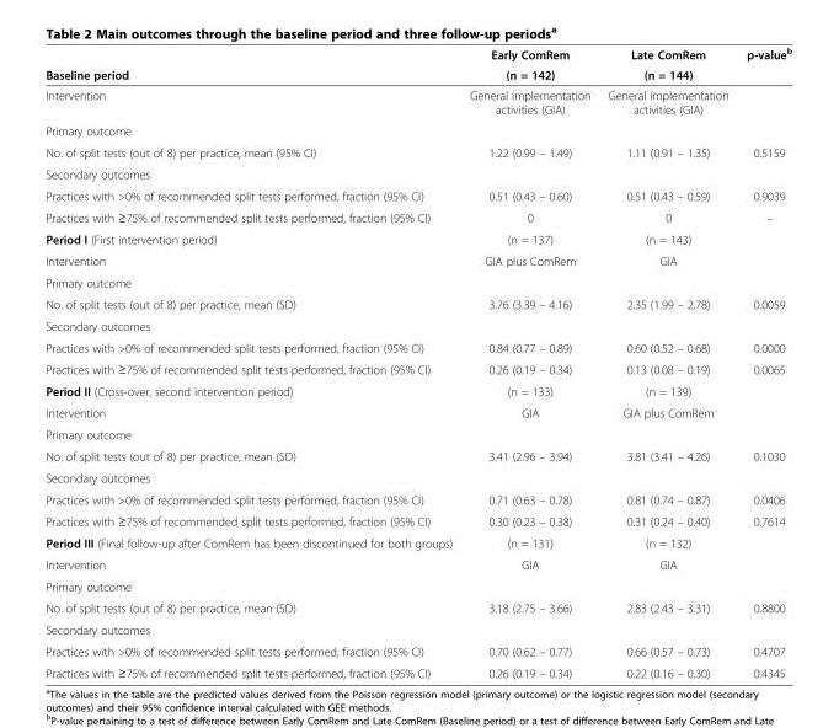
<table><thead><tr><td rowspan="2">Baseline period</td><td rowspan="2">Early ComRem (n = 142)</td><td rowspan="2">Late ComRem (n = 144)</td><td rowspan="2">p-value<sup>b</sup></td></tr><tr></tr></thead><tbody><tr><td>Intervention</td><td>General implementation activities (GIA)</td><td>General implementation activities (GIA)</td><td></td></tr><tr><td colspan="4">Primary outcome</td></tr><tr><td>No. of split tests (out of 8) per practice, mean (95% CI)</td><td>1.22 (0.99 – 1.49)</td><td>1.11 (0.91 – 1.35)</td><td>0.5159</td></tr><tr><td colspan="4">Secondary outcomes</td></tr><tr><td>Practices with &gt;0% of recommended split tests performed, fraction (95% CI)</td><td>0.51 (0.43 – 0.60)</td><td>0.51 (0.43 – 0.59)</td><td>0.9039</td></tr><tr><td>Practices with ≥75% of recommended split tests performed, fraction (95% CI)</td><td>0</td><td>0</td><td>–</td></tr><tr><td>Period I (First intervention period)</td><td>(n = 137)</td><td>(n = 143)</td><td></td></tr><tr><td>Intervention</td><td>GIA plus ComRem</td><td>GIA</td><td></td></tr><tr><td colspan="4">Primary outcome</td></tr><tr><td>No. of split tests (out of 8) per practice, mean (SD)</td><td>3.76 (3.39 – 4.16)</td><td>2.35 (1.99 – 2.78)</td><td>0.0059</td></tr><tr><td colspan="4">Secondary outcomes</td></tr><tr><td>Practices with &gt;0% of recommended split tests performed, fraction (95% CI)</td><td>0.84 (0.77 – 0.89)</td><td>0.60 (0.52 – 0.68)</td><td>0.0000</td></tr><tr><td>Practices with ≥75% of recommended split tests performed, fraction (95% CI)</td><td>0.26 (0.19 – 0.34)</td><td>0.13 (0.08 – 0.19)</td><td>0.0065</td></tr><tr><td>Period II (Cross-over, second intervention period)</td><td>(n = 133)</td><td>(n = 139)</td><td></td></tr><tr><td>Intervention</td><td>GIA</td><td>GIA plus ComRem</td><td></td></tr><tr><td colspan="4">Primary outcome</td></tr><tr><td>No. of split tests (out of 8) per practice, mean (SD)</td><td>3.41 (2.96 – 3.94)</td><td>3.81 (3.41 – 4.26)</td><td>0.1030</td></tr><tr><td colspan="4">Secondary outcomes</td></tr><tr><td>Practices with &gt;0% of recommended split tests performed, fraction (95% CI)</td><td>0.71 (0.63 – 0.78)</td><td>0.81 (0.74 – 0.87)</td><td>0.0406</td></tr><tr><td>Practices with ≥75% of recommended split tests performed, fraction (95% CI)</td><td>0.30 (0.23 – 0.38)</td><td>0.31 (0.24 – 0.40)</td><td>0.7614</td></tr><tr><td>Period III (Final follow-up after ComRem has been discontinued for both groups)</td><td>(n = 131)</td><td>(n = 132)</td><td></td></tr><tr><td>Intervention</td><td>GIA</td><td>GIA</td><td></td></tr><tr><td colspan="4">Primary outcome</td></tr><tr><td>No. of split tests (out of 8) per practice, mean (SD)</td><td>3.18 (2.75 – 3.66)</td><td>2.83 (2.43 – 3.31)</td><td>0.8800</td></tr><tr><td colspan="4">Secondary outcomes</td></tr><tr><td>Practices with &gt;0% of recommended split tests performed, fraction (95% CI)</td><td>0.70 (0.62 – 0.77)</td><td>0.66 (0.57 – 0.73)</td><td>0.4707</td></tr><tr><td>Practices with ≥75% of recommended split tests performed, fraction (95% CI)</td><td>0.26 (0.19 – 0.34)</td><td>0.22 (0.16 – 0.30)</td><td>0.4345</td></tr></tbody></table>